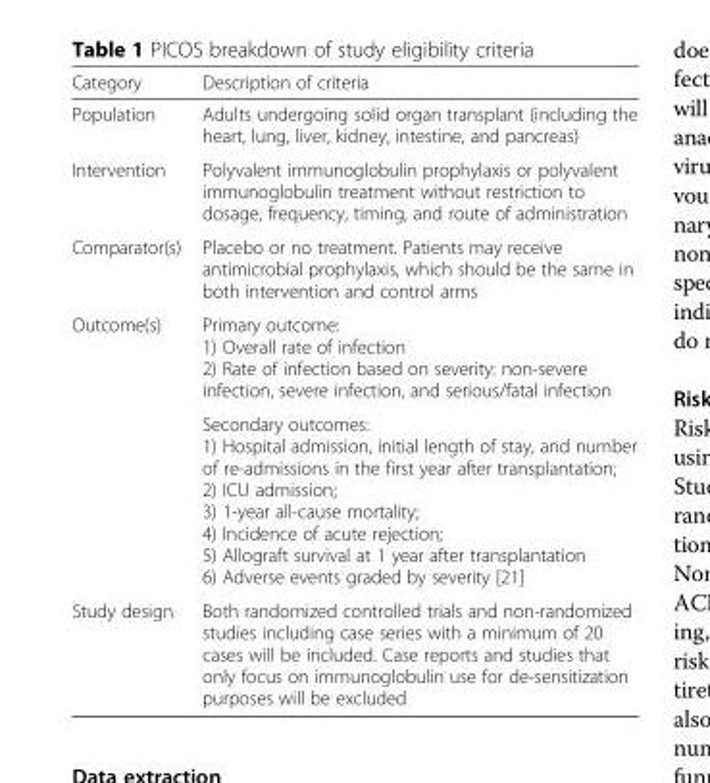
<table><thead><tr><td>Category</td><td>Description of criteria</td></tr></thead><tbody><tr><td>Population</td><td>Adults undergoing solid organ transplant (including the heart, lung, liver, kidney, intestine, and pancreas)</td></tr><tr><td>Intervention</td><td>Polyvalent immunoglobulin prophylaxis or polyvalent immunoglobulin treatment without restriction to dosage, frequency, timing, and route of administration</td></tr><tr><td>Comparator(s)</td><td>Placebo or no treatment. Patients may receive antimicrobial prophylaxis, which should be the same in both intervention and control arms</td></tr><tr><td rowspan="2">Outcome(s)</td><td>Primary outcome: 1) Overall rate of infection 2) Rate of infection based on severity: non-severe infection, severe infection, and serious/fatal infection</td></tr><tr><td>Secondary outcomes: 1) Hospital admission, initial length of stay, and number of re-admissions in the first year after transplantation; 2) ICU admission; 3) 1-year all-cause mortality; 4) Incidence of acute rejection; 5) Allograft survival at 1 year after transplantation 6) Adverse events graded by severity [21]</td></tr><tr><td>Study design</td><td>Both randomized controlled trials and non-randomized studies including case series with a minimum of 20 cases will be included. Case reports and studies that only focus on immunoglobulin use for de-sensitization purposes will be excluded</td></tr></tbody></table>